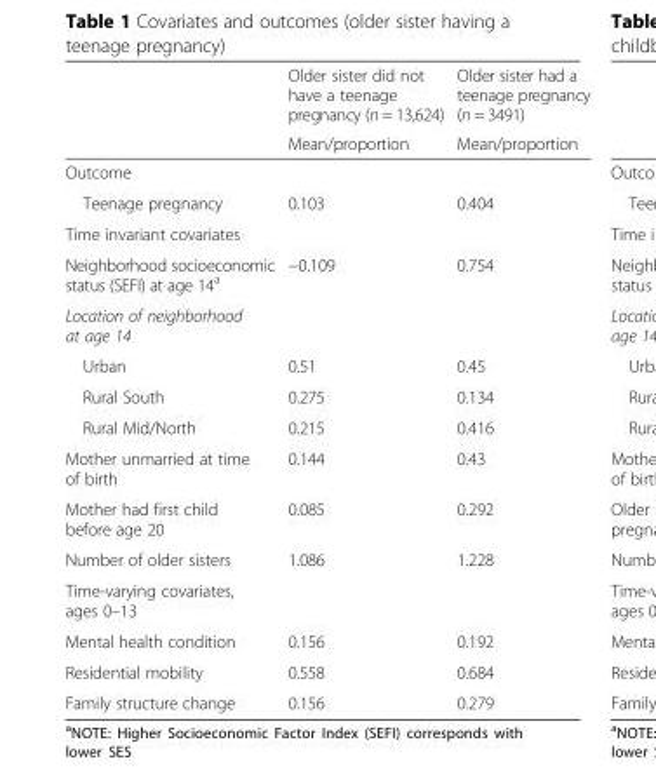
<table><thead><tr><td rowspan="2"></td><td rowspan="2">Older sister did not have a teenage pregnancy (n = 13,624) Mean/proportion</td><td rowspan="2">Older sister had a teenage pregnancy (n = 3491) Mean/proportion</td></tr><tr></tr></thead><tbody><tr><td colspan="3">Outcome</td></tr><tr><td>Teenage pregnancy</td><td>0.103</td><td>0.404</td></tr><tr><td colspan="3">Time invariant covariates</td></tr><tr><td>Neighborhood socioeconomic status (SEFI) at age 14<sup>a</sup></td><td>−0.109</td><td>0.754</td></tr><tr><td colspan="3">Location of neighborhood at age 14</td></tr><tr><td>Urban</td><td>0.51</td><td>0.45</td></tr><tr><td>Rural South</td><td>0.275</td><td>0.134</td></tr><tr><td>Rural Mid/North</td><td>0.215</td><td>0.416</td></tr><tr><td>Mother unmarried at time of birth</td><td>0.144</td><td>0.43</td></tr><tr><td>Mother had first child before age 20</td><td>0.085</td><td>0.292</td></tr><tr><td>Number of older sisters</td><td>1.086</td><td>1.228</td></tr><tr><td colspan="3">Time-varying covariates, ages 0–13</td></tr><tr><td>Mental health condition</td><td>0.156</td><td>0.192</td></tr><tr><td>Residential mobility</td><td>0.558</td><td>0.684</td></tr><tr><td>Family structure change</td><td>0.156</td><td>0.279</td></tr></tbody></table>